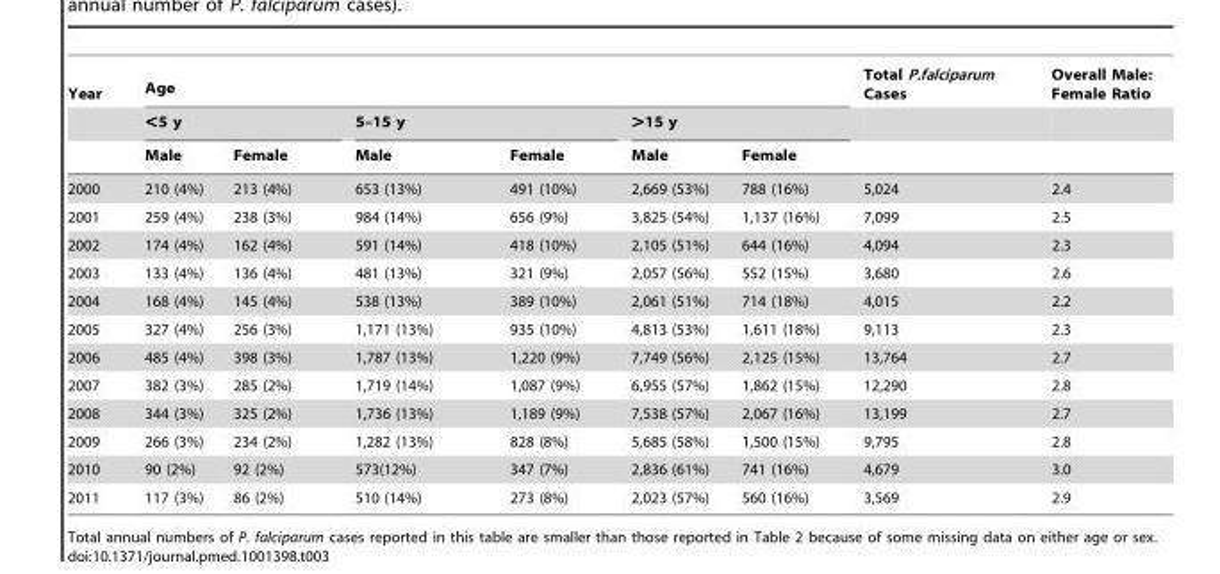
<table><thead><tr><td rowspan="3">Year</td><td colspan="6">Age</td><td rowspan="3">Total P.falciparum Cases</td><td rowspan="3">Overall Male: Female Ratio</td></tr><tr><td colspan="2">&lt;5 y</td><td colspan="2">5–15 y</td><td colspan="2">&gt;15 y</td></tr><tr><td>Male</td><td>Female</td><td>Male</td><td>Female</td><td>Male</td><td>Female</td></tr></thead><tbody><tr><td>2000</td><td>210 (4%)</td><td>213 (4%)</td><td>653 (13%)</td><td>491 (10%)</td><td>2,669 (53%)</td><td>788 (16%)</td><td>5,024</td><td>2.4</td></tr><tr><td>2001</td><td>259 (4%)</td><td>238 (3%)</td><td>984 (14%)</td><td>656 (9%)</td><td>3,825 (54%)</td><td>1,137 (16%)</td><td>7,099</td><td>2.5</td></tr><tr><td>2002</td><td>174 (4%)</td><td>162 (4%)</td><td>591 (14%)</td><td>418 (10%)</td><td>2,105 (51%)</td><td>644 (16%)</td><td>4,094</td><td>2.3</td></tr><tr><td>2003</td><td>133 (4%)</td><td>136 (4%)</td><td>481 (13%)</td><td>321 (9%)</td><td>2,057 (56%)</td><td>552 (15%)</td><td>3,680</td><td>2.6</td></tr><tr><td>2004</td><td>168 (4%)</td><td>145 (4%)</td><td>538 (13%)</td><td>389 (10%)</td><td>2,061 (51%)</td><td>714 (18%)</td><td>4,015</td><td>2.2</td></tr><tr><td>2005</td><td>327 (4%)</td><td>256 (3%)</td><td>1,171 (13%)</td><td>935 (10%)</td><td>4,813 (53%)</td><td>1,611 (18%)</td><td>9,113</td><td>2.3</td></tr><tr><td>2006</td><td>485 (4%)</td><td>398 (3%)</td><td>1,787 (13%)</td><td>1,220 (9%)</td><td>7,749 (56%)</td><td>2,125 (15%)</td><td>13,764</td><td>2.7</td></tr><tr><td>2007</td><td>382 (3%)</td><td>285 (2%)</td><td>1,719 (14%)</td><td>1,087 (9%)</td><td>6,955 (57%)</td><td>1,862 (15%)</td><td>12,290</td><td>2.8</td></tr><tr><td>2008</td><td>344 (3%)</td><td>325 (2%)</td><td>1,736 (13%)</td><td>1,189 (9%)</td><td>7,538 (57%)</td><td>2,067 (16%)</td><td>13,199</td><td>2.7</td></tr><tr><td>2009</td><td>266 (3%)</td><td>234 (2%)</td><td>1,282 (13%)</td><td>828 (8%)</td><td>5,685 (58%)</td><td>1,500 (15%)</td><td>9,795</td><td>2.8</td></tr><tr><td>2010</td><td>90 (2%)</td><td>92 (2%)</td><td>573(12%)</td><td>347 (7%)</td><td>2,836 (61%)</td><td>741 (16%)</td><td>4,679</td><td>3.0</td></tr><tr><td>2011</td><td>117 (3%)</td><td>86 (2%)</td><td>510 (14%)</td><td>273 (8%)</td><td>2,023 (57%)</td><td>560 (16%)</td><td>3,569</td><td>2.9</td></tr></tbody></table>